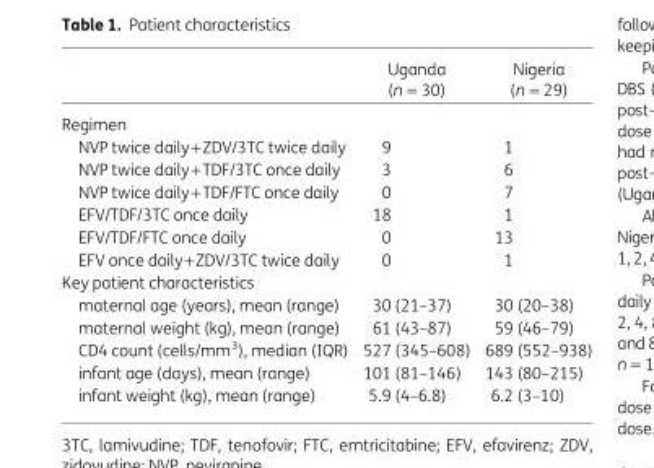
<table><thead><tr><td></td><td>Uganda (n = 30)</td><td>Nigeria (n = 29)</td></tr></thead><tbody><tr><td colspan="3">Regimen</td></tr><tr><td>NVP twice daily+ZDV/3TC twice daily</td><td>9</td><td>1</td></tr><tr><td>NVP twice daily+TDF/3TC once daily</td><td>3</td><td>6</td></tr><tr><td>NVP twice daily+TDF/FTC once daily</td><td>0</td><td>7</td></tr><tr><td>EFV/TDF/3TC once daily</td><td>18</td><td>1</td></tr><tr><td>EFV/TDF/FTC once daily</td><td>0</td><td>13</td></tr><tr><td>EFV once daily+ZDV/3TC twice daily</td><td>0</td><td>1</td></tr><tr><td colspan="3">Key patient characteristics</td></tr><tr><td>maternal age (years), mean (range)</td><td>30 (21–37)</td><td>30 (20–38)</td></tr><tr><td>maternal weight (kg), mean (range)</td><td>61 (43–87)</td><td>59 (46–79)</td></tr><tr><td>CD4 count (cells/mm<sup>3</sup>), median (IQR)</td><td>527 (345–608)</td><td>689 (552–938)</td></tr><tr><td>infant age (days), mean (range)</td><td>101 (81–146)</td><td>143 (80–215)</td></tr><tr><td>infant weight (kg), mean (range)</td><td>5.9 (4–6.8)</td><td>6.2 (3–10)</td></tr></tbody></table>